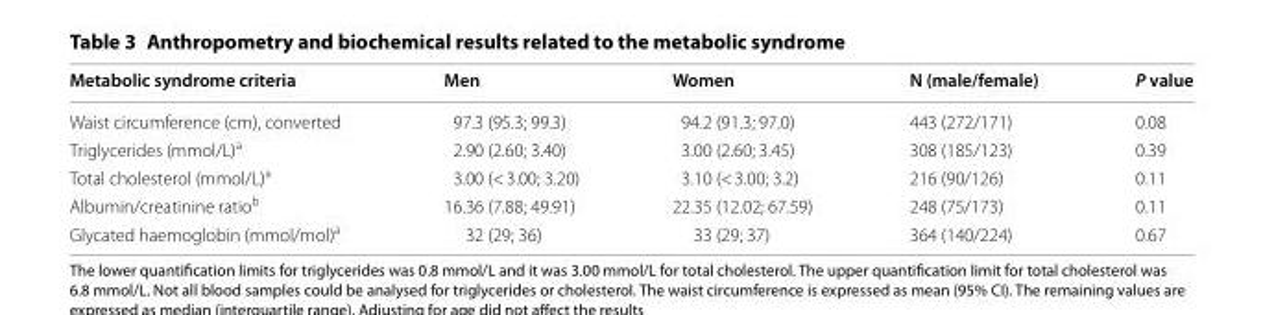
<table><thead><tr><td>Metabolic syndrome criteria</td><td>Men</td><td>Women</td><td>N (male/female)</td><td>P value</td></tr></thead><tbody><tr><td>Waist circumference (cm), converted</td><td>97.3 (95.3; 99.3)</td><td>94.2 (91.3; 97.0)</td><td>443 (272/171)</td><td>0.08</td></tr><tr><td>Triglycerides (mmol/L)<sup>a</sup></td><td>2.90 (2.60; 3.40)</td><td>3.00 (2.60; 3.45)</td><td>308 (185/123)</td><td>0.39</td></tr><tr><td>Total cholesterol (mmol/L)<sup>a</sup></td><td>3.00 (&lt; 3.00; 3.20)</td><td>3.10 (&lt; 3.00; 3.2)</td><td>216 (90/126)</td><td>0.11</td></tr><tr><td>Albumin/creatinine ratio<sup>b</sup></td><td>16.36 (7.88; 49.91)</td><td>22.35 (12.02; 67.59)</td><td>248 (75/173)</td><td>0.11</td></tr><tr><td>Glycated haemoglobin (mmol/mol)<sup>a</sup></td><td>32 (29; 36)</td><td>33 (29; 37)</td><td>364 (140/224)</td><td>0.67</td></tr></tbody></table>